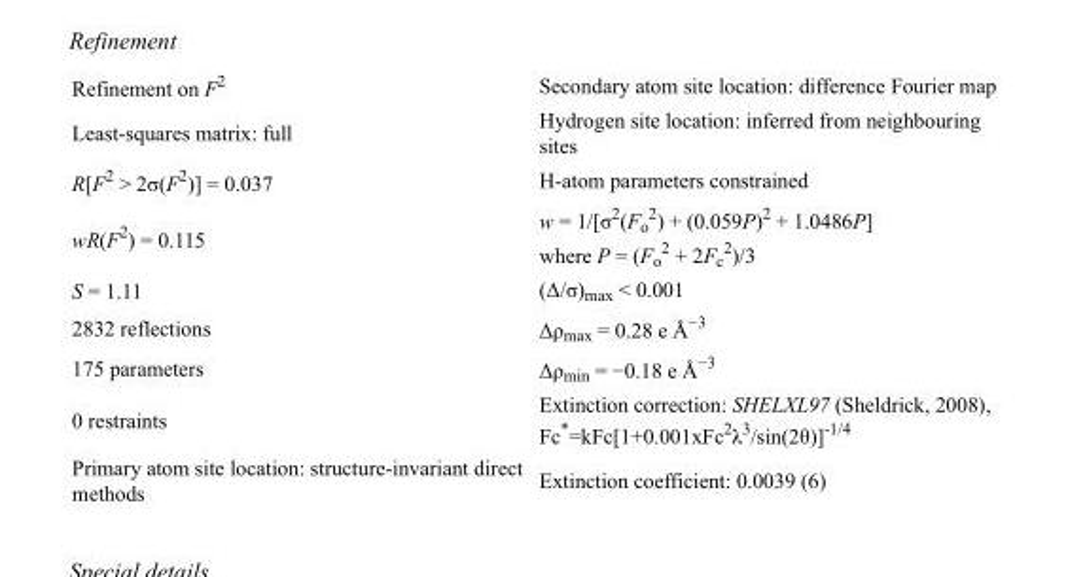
<table><tbody><tr><td>Refinement on F<sup>2</sup></td><td>Secondary atom site location: difference Fourier map</td></tr><tr><td>Least-squares matrix: full</td><td>Hydrogen site location: inferred from neighbouring sites</td></tr><tr><td>R[F<sup>2</sup> &gt; 2σ(F<sup>2</sup>)] = 0.037</td><td>H-atom parameters constrained</td></tr><tr><td>wR(F<sup>2</sup>) = 0.115</td><td>w = 1/[σ<sup>2</sup>(F<sub>o</sub> <sup>2</sup>) + (0.059P)<sup>2</sup> + 1.0486P] where P = (F<sub>o</sub> <sup>2</sup> + 2F<sub>c</sub> <sup>2</sup>)/3</td></tr><tr><td>S = 1.11</td><td>(Δ/σ)<sub>max</sub> &lt; 0.001</td></tr><tr><td>2832 reflections</td><td>Δρ<sub>max</sub> = 0.28 e Å<sup>−3</sup></td></tr><tr><td>175 parameters</td><td>Δρ<sub>min</sub> = −0.18 e Å<sup>−3</sup></td></tr><tr><td>0 restraints</td><td>Extinction correction: SHELXL97 (Sheldrick, 2008), Fc*=kFc[1+0.001xFc<sup>2</sup>λ<sup>3</sup>/sin(2θ)]<sup>-1/4</sup></td></tr><tr><td>Primary atom site location: structure-invariant direct methods</td><td>Extinction coefficient: 0.0039 (6)</td></tr></tbody></table>